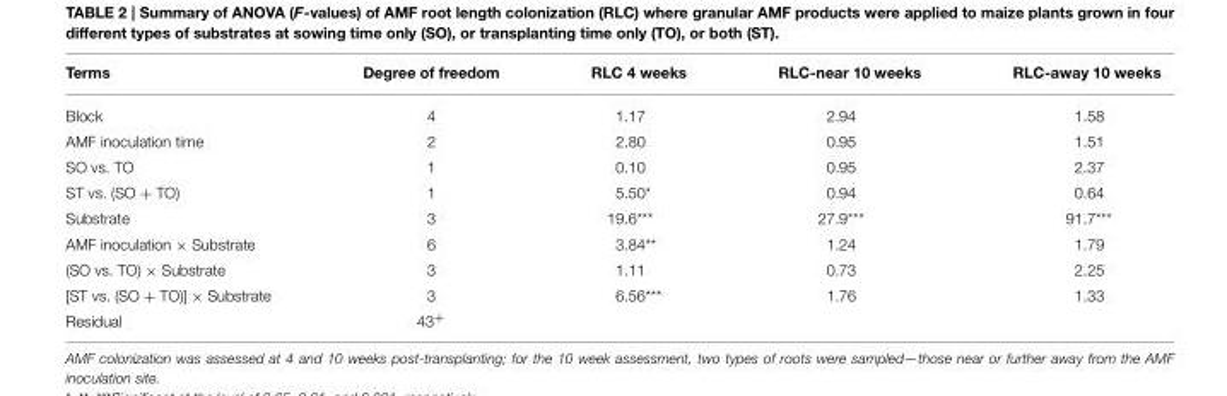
<table><thead><tr><td>Terms</td><td>Degree of freedom</td><td>RLC 4 weeks</td><td>RLC-near 10 weeks</td><td>RLC-away 10 weeks</td></tr></thead><tbody><tr><td>Block</td><td>4</td><td>1.17</td><td>2.94</td><td>1.58</td></tr><tr><td>AMF inoculation time</td><td>2</td><td>2.80</td><td>0.95</td><td>1.51</td></tr><tr><td>SO vs. TO</td><td>1</td><td>0.10</td><td>0.95</td><td>2.37</td></tr><tr><td>ST vs. (SO + TO)</td><td>1</td><td>5.50*</td><td>0.94</td><td>0.64</td></tr><tr><td>Substrate</td><td>3</td><td>19.6***</td><td>27.9***</td><td>91.7***</td></tr><tr><td>AMF inoculation × Substrate</td><td>6</td><td>3.84**</td><td>1.24</td><td>1.79</td></tr><tr><td>(SO vs. TO) × Substrate</td><td>3</td><td>1.11</td><td>0.73</td><td>2.25</td></tr><tr><td>[ST vs. (SO + TO)] × Substrate</td><td>3</td><td>6.56***</td><td>1.76</td><td>1.33</td></tr><tr><td>Residual</td><td>43<sup>+</sup></td><td></td><td></td><td></td></tr></tbody></table>